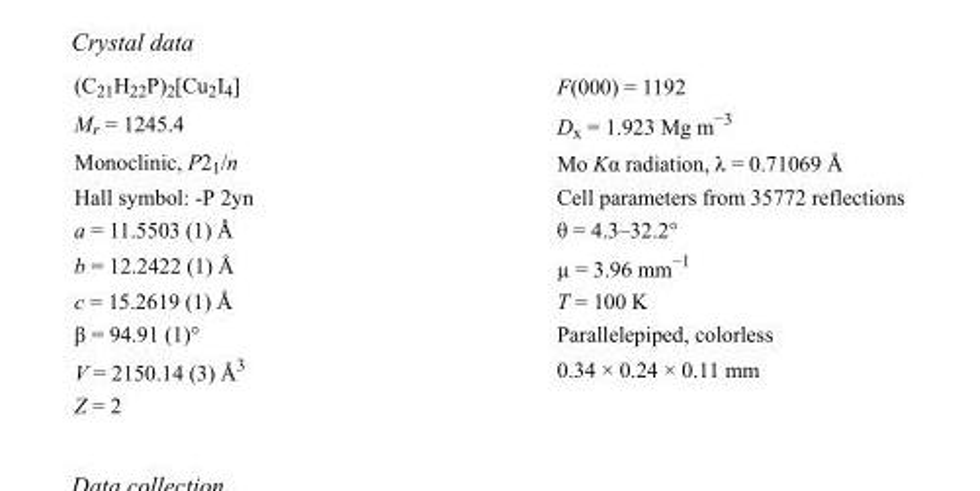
<table><tbody><tr><td>(C<sub>21</sub>H<sub>22</sub>P)<sub>2</sub>[Cu<sub>2</sub>I<sub>4</sub>]</td><td>F(000) = 1192</td></tr><tr><td>M<sub>r</sub> = 1245.4</td><td>D<sub>x</sub> = 1.923 Mg m<sup>−3</sup></td></tr><tr><td>Monoclinic, P2<sub>1</sub>/n</td><td>Mo Kα radiation, λ = 0.71069 Å</td></tr><tr><td>Hall symbol: -P 2yn</td><td>Cell parameters from 35772 reflections</td></tr><tr><td>a = 11.5503 (1) Å</td><td>θ = 4.3–32.2°</td></tr><tr><td>b = 12.2422 (1) Å</td><td>µ = 3.96 mm<sup>−1</sup></td></tr><tr><td>c = 15.2619 (1) Å</td><td>T = 100 K</td></tr><tr><td>β = 94.91 (1)°</td><td>Parallelepiped, colorless</td></tr><tr><td>V = 2150.14 (3) Å<sup>3</sup></td><td>0.34 × 0.24 × 0.11 mm</td></tr><tr><td>Z = 2</td><td></td></tr></tbody></table>